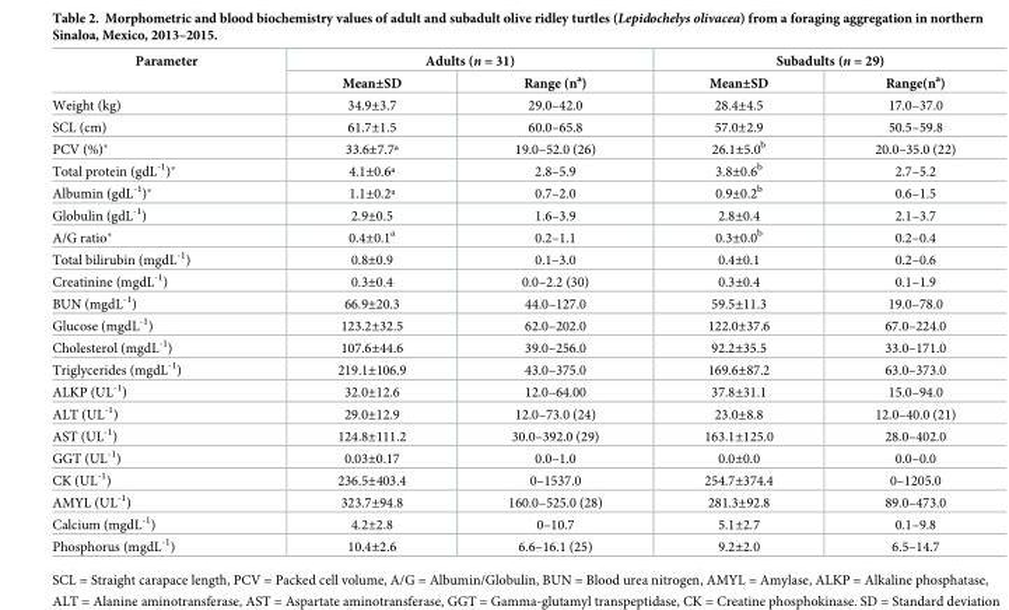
<table><thead><tr><td rowspan="2">Parameter</td><td colspan="2">Adults (n = 31)</td><td colspan="2">Subadults (n = 29)</td></tr><tr><td>Mean±SD</td><td>Range (n<sup>a</sup>)</td><td>Mean±SD</td><td>Range(n<sup>a</sup>)</td></tr></thead><tbody><tr><td>Weight (kg)</td><td>34.9±3.7</td><td>29.0–42.0</td><td>28.4±4.5</td><td>17.0–37.0</td></tr><tr><td>SCL (cm)</td><td>61.7±1.5</td><td>60.0–65.8</td><td>57.0±2.9</td><td>50.5–59.8</td></tr><tr><td>PCV (%)*</td><td>33.6±7.7ª</td><td>19.0–52.0 (26)</td><td>26.1±5.0<sup>b</sup></td><td>20.0–35.0 (22)</td></tr><tr><td>Total protein (gdL<sup>-1</sup>)*</td><td>4.1±0.6ª</td><td>2.8–5.9</td><td>3.8±0.6<sup>b</sup></td><td>2.7–5.2</td></tr><tr><td>Albumin (gdL<sup>-1</sup>)*</td><td>1.1±0.2ª</td><td>0.7–2.0</td><td>0.9±0.2<sup>b</sup></td><td>0.6–1.5</td></tr><tr><td>Globulin (gdL<sup>-1</sup>)</td><td>2.9±0.5</td><td>1.6–3.9</td><td>2.8±0.4</td><td>2.1–3.7</td></tr><tr><td>A/G ratio*</td><td>0.4±0.1<sup>a</sup></td><td>0.2–1.1</td><td>0.3±0.0<sup>b</sup></td><td>0.2–0.4</td></tr><tr><td>Total bilirubin (mgdL<sup>-1</sup>)</td><td>0.8±0.9</td><td>0.1–3.0</td><td>0.4±0.1</td><td>0.2–0.6</td></tr><tr><td>Creatinine (mgdL<sup>-1</sup>)</td><td>0.3±0.4</td><td>0.0–2.2 (30)</td><td>0.3±0.4</td><td>0.1–1.9</td></tr><tr><td>BUN (mgdL<sup>-1</sup>)</td><td>66.9±20.3</td><td>44.0–127.0</td><td>59.5±11.3</td><td>19.0–78.0</td></tr><tr><td>Glucose (mgdL<sup>-1</sup>)</td><td>123.2±32.5</td><td>62.0–202.0</td><td>122.0±37.6</td><td>67.0–224.0</td></tr><tr><td>Cholesterol (mgdL<sup>-1</sup>)</td><td>107.6±44.6</td><td>39.0–256.0</td><td>92.2±35.5</td><td>33.0–171.0</td></tr><tr><td>Triglycerides (mgdL<sup>-1</sup>)</td><td>219.1±106.9</td><td>43.0–375.0</td><td>169.6±87.2</td><td>63.0–373.0</td></tr><tr><td>ALKP (UL<sup>-1</sup>)</td><td>32.0±12.6</td><td>12.0–64.00</td><td>37.8±31.1</td><td>15.0–94.0</td></tr><tr><td>ALT (UL<sup>-1</sup>)</td><td>29.0±12.9</td><td>12.0–73.0 (24)</td><td>23.0±8.8</td><td>12.0–40.0 (21)</td></tr><tr><td>AST (UL<sup>-1</sup>)</td><td>124.8±111.2</td><td>30.0–392.0 (29)</td><td>163.1±125.0</td><td>28.0–402.0</td></tr><tr><td>GGT (UL<sup>-1</sup>)</td><td>0.03±0.17</td><td>0.0–1.0</td><td>0.0±0.0</td><td>0.0–0.0</td></tr><tr><td>CK (UL<sup>-1</sup>)</td><td>236.5±403.4</td><td>0–1537.0</td><td>254.7±374.4</td><td>0–1205.0</td></tr><tr><td>AMYL (UL<sup>-1</sup>)</td><td>323.7±94.8</td><td>160.0–525.0 (28)</td><td>281.3±92.8</td><td>89.0–473.0</td></tr><tr><td>Calcium (mgdL<sup>-1</sup>)</td><td>4.2±2.8</td><td>0–10.7</td><td>5.1±2.7</td><td>0.1–9.8</td></tr><tr><td>Phosphorus (mgdL<sup>-1</sup>)</td><td>10.4±2.6</td><td>6.6–16.1 (25)</td><td>9.2±2.0</td><td>6.5–14.7</td></tr></tbody></table>